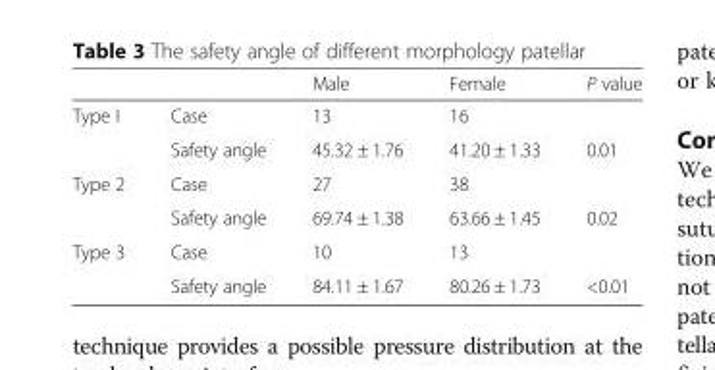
<table><thead><tr><td></td><td></td><td>Male</td><td>Female</td><td>P value</td></tr></thead><tbody><tr><td rowspan="2">Type I</td><td>Case</td><td>13</td><td>16</td><td></td></tr><tr><td>Safety angle</td><td>45.32 ± 1.76</td><td>41.20 ± 1.33</td><td>0.01</td></tr><tr><td rowspan="2">Type 2</td><td>Case</td><td>27</td><td>38</td><td></td></tr><tr><td>Safety angle</td><td>69.74 ± 1.38</td><td>63.66 ± 1.45</td><td>0.02</td></tr><tr><td rowspan="2">Type 3</td><td>Case</td><td>10</td><td>13</td><td></td></tr><tr><td>Safety angle</td><td>84.11 ± 1.67</td><td>80.26 ± 1.73</td><td>&lt;0.01</td></tr></tbody></table>